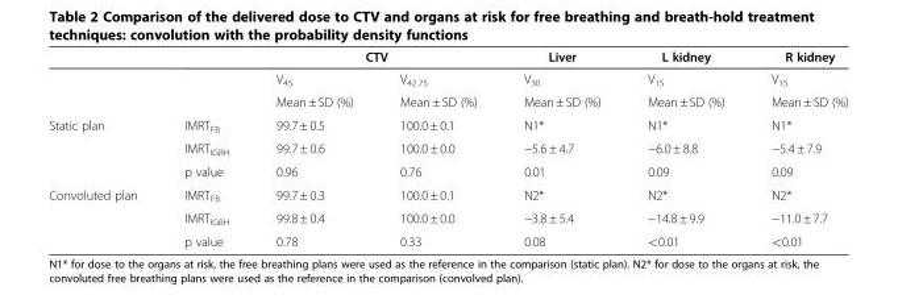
<table><thead><tr><td rowspan="2"></td><td rowspan="2"></td><td colspan="2">CTV</td><td rowspan="2">Liver V<sub>30</sub></td><td rowspan="2">L kidney V<sub>15</sub></td><td rowspan="2">R kidney V<sub>15</sub></td></tr><tr><td>V<sub>45</sub></td><td>V<sub>42.75</sub></td></tr></thead><tbody><tr><td></td><td></td><td>Mean ± SD (%)</td><td>Mean ± SD (%)</td><td>Mean ± SD (%)</td><td>Mean ± SD (%)</td><td>Mean ± SD (%)</td></tr><tr><td rowspan="3">Static plan</td><td>IMRT<sub>FB</sub></td><td>99.7 ± 0.5</td><td>100.0 ± 0.1</td><td>N1*</td><td>N1*</td><td>N1*</td></tr><tr><td>IMRT<sub>IGBH</sub></td><td>99.7 ± 0.6</td><td>100.0 ± 0.0</td><td>−5.6 ± 4.7</td><td>−6.0 ± 8.8</td><td>−5.4 ± 7.9</td></tr><tr><td>p value</td><td>0.96</td><td>0.76</td><td>0.01</td><td>0.09</td><td>0.09</td></tr><tr><td rowspan="3">Convoluted plan</td><td>IMRT<sub>FB</sub></td><td>99.7 ± 0.3</td><td>100.0 ± 0.1</td><td>N2*</td><td>N2*</td><td>N2*</td></tr><tr><td>IMRT<sub>IGBH</sub></td><td>99.8 ± 0.4</td><td>100.0 ± 0.0</td><td>−3.8 ± 5.4</td><td>−14.8 ± 9.9</td><td>−11.0 ± 7.7</td></tr><tr><td>p value</td><td>0.78</td><td>0.33</td><td>0.08</td><td>&lt;0.01</td><td>&lt;0.01</td></tr></tbody></table>